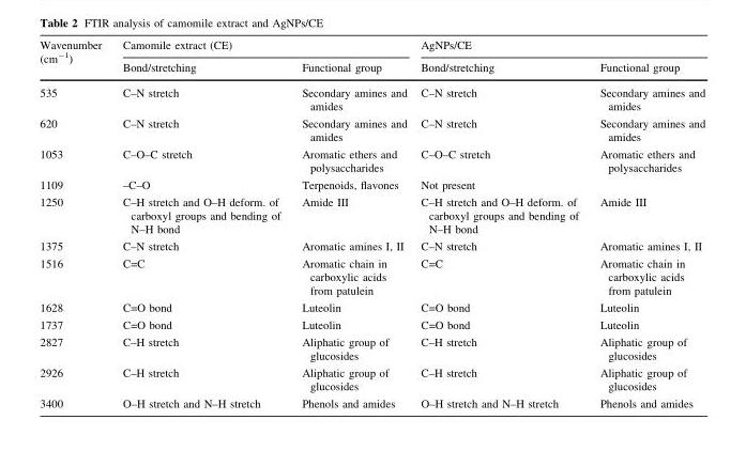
<table><thead><tr><td rowspan="2">Wavenumber (cm<sup>-1</sup>)</td><td colspan="2">Camomile extract (CE)</td><td colspan="2">AgNPs/CE</td></tr><tr><td>Bond/stretching</td><td>Functional group</td><td>Bond/stretching</td><td>Functional group</td></tr></thead><tbody><tr><td>535</td><td>C–N stretch</td><td>Secondary amines and amides</td><td>C–N stretch</td><td>Secondary amines and amides</td></tr><tr><td>620</td><td>C–N stretch</td><td>Secondary amines and amides</td><td>C–N stretch</td><td>Secondary amines and amides</td></tr><tr><td>1053</td><td>C–O–C stretch</td><td>Aromatic ethers and polysaccharides</td><td>C–O–C stretch</td><td>Aromatic ethers and polysaccharides</td></tr><tr><td>1109</td><td>–C–O</td><td>Terpenoids, flavones</td><td colspan="2">Not present</td></tr><tr><td>1250</td><td>C–H stretch and O–H deform. of carboxyl groups and bending of N–H bond</td><td>Amide III</td><td>C–H stretch and O–H deform. of carboxyl groups and bending of N–H bond</td><td>Amide III</td></tr><tr><td>1375</td><td>C–N stretch</td><td>Aromatic amines I, II</td><td>C–N stretch</td><td>Aromatic amines I, II</td></tr><tr><td>1516</td><td>C=C</td><td>Aromatic chain in carboxylic acids from patulein</td><td>C=C</td><td>Aromatic chain in carboxylic acids from patulein</td></tr><tr><td>1628</td><td>C=O bond</td><td>Luteolin</td><td>C=O bond</td><td>Luteolin</td></tr><tr><td>1737</td><td>C=O bond</td><td>Luteolin</td><td>C=O bond</td><td>Luteolin</td></tr><tr><td>2827</td><td>C–H stretch</td><td>Aliphatic group of glucosides</td><td>C–H stretch</td><td>Aliphatic group of glucosides</td></tr><tr><td>2926</td><td>C–H stretch</td><td>Aliphatic group of glucosides</td><td>C–H stretch</td><td>Aliphatic group of glucosides</td></tr><tr><td>3400</td><td>O–H stretch and N–H stretch</td><td>Phenols and amides</td><td>O–H stretch and N–H stretch</td><td>Phenols and amides</td></tr></tbody></table>